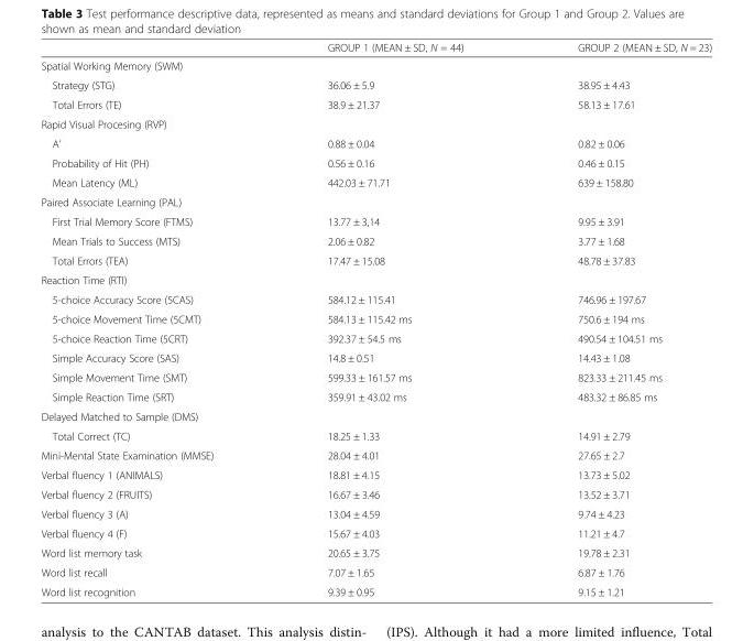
<table><thead><tr><td></td><td>GROUP 1 (MEAN ± SD, N = 44)</td><td>GROUP 2 (MEAN ± SD, N = 23)</td></tr></thead><tbody><tr><td colspan="3">Spatial Working Memory (SWM)</td></tr><tr><td>Strategy (STG)</td><td>36.06 ± 5.9</td><td>38.95 ± 4.43</td></tr><tr><td>Total Errors (TE)</td><td>38.9 ± 21.37</td><td>58.13 ± 17.61</td></tr><tr><td colspan="3">Rapid Visual Procesing (RVP)</td></tr><tr><td>A’</td><td>0.88 ± 0.04</td><td>0.82 ± 0.06</td></tr><tr><td>Probability of Hit (PH)</td><td>0.56 ± 0.16</td><td>0.46 ± 0.15</td></tr><tr><td>Mean Latency (ML)</td><td>442.03 ± 71.71</td><td>639 ± 158.80</td></tr><tr><td colspan="3">Paired Associate Learning (PAL)</td></tr><tr><td>First Trial Memory Score (FTMS)</td><td>13.77 ± 3,14</td><td>9.95 ± 3.91</td></tr><tr><td>Mean Trials to Success (MTS)</td><td>2.06 ± 0.82</td><td>3.77 ± 1.68</td></tr><tr><td>Total Errors (TEA)</td><td>17.47 ± 15.08</td><td>48.78 ± 37.83</td></tr><tr><td colspan="3">Reaction Time (RTI)</td></tr><tr><td>5-choice Accuracy Score (5CAS)</td><td>584.12 ± 115.41</td><td>746.96 ± 197.67</td></tr><tr><td>5-choice Movement Time (5CMT)</td><td>584.13 ± 115.42 ms</td><td>750.6 ± 194 ms</td></tr><tr><td>5-choice Reaction Time (5CRT)</td><td>392.37 ± 54.5 ms</td><td>490.54 ± 104.51 ms</td></tr><tr><td>Simple Accuracy Score (SAS)</td><td>14.8 ± 0.51</td><td>14.43 ± 1.08</td></tr><tr><td>Simple Movement Time (SMT)</td><td>599.33 ± 161.57 ms</td><td>823.33 ± 211.45 ms</td></tr><tr><td>Simple Reaction Time (SRT)</td><td>359.91 ± 43.02 ms</td><td>483.32 ± 86.85 ms</td></tr><tr><td colspan="3">Delayed Matched to Sample (DMS)</td></tr><tr><td>Total Correct (TC)</td><td>18.25 ± 1.33</td><td>14.91 ± 2.79</td></tr><tr><td>Mini-Mental State Examination (MMSE)</td><td>28.04 ± 4.01</td><td>27.65 ± 2.7</td></tr><tr><td>Verbal fluency 1 (ANIMALS)</td><td>18.81 ± 4.15</td><td>13.73 ± 5.02</td></tr><tr><td>Verbal fluency 2 (FRUITS)</td><td>16.67 ± 3.46</td><td>13.52 ± 3.71</td></tr><tr><td>Verbal fluency 3 (A)</td><td>13.04 ± 4.59</td><td>9.74 ± 4.23</td></tr><tr><td>Verbal fluency 4 (F)</td><td>15.67 ± 4.03</td><td>11.21 ± 4.7</td></tr><tr><td>Word list memory task</td><td>20.65 ± 3.75</td><td>19.78 ± 2.31</td></tr><tr><td>Word list recall</td><td>7.07 ± 1.65</td><td>6.87 ± 1.76</td></tr><tr><td>Word list recognition</td><td>9.39 ± 0.95</td><td>9.15 ± 1.21</td></tr></tbody></table>